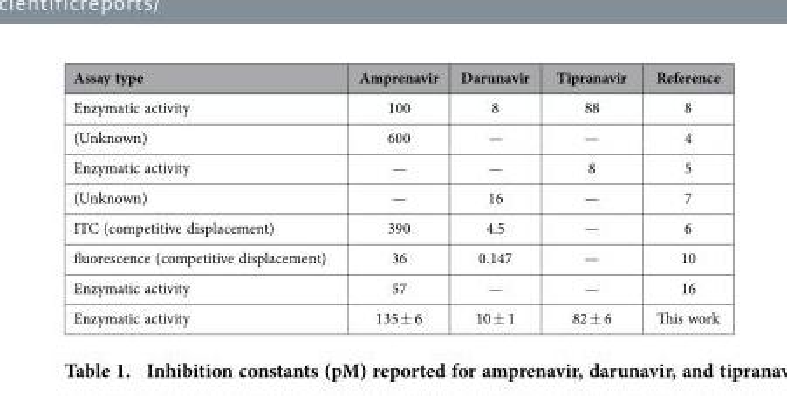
<table><thead><tr><td>Assay type</td><td>Amprenavir</td><td>Darunavir</td><td>Tipranavir</td><td>Reference</td></tr></thead><tbody><tr><td>Enzymatic activity</td><td>100</td><td>8</td><td>88</td><td>8</td></tr><tr><td>(Unknown)</td><td>600</td><td>—</td><td>—</td><td>4</td></tr><tr><td>Enzymatic activity</td><td>—</td><td>—</td><td>8</td><td>5</td></tr><tr><td>(Unknown)</td><td>—</td><td>16</td><td>—</td><td>7</td></tr><tr><td>ITC (competitive displacement)</td><td>390</td><td>4.5</td><td>—</td><td>6</td></tr><tr><td>fluorescence (competitive displacement)</td><td>36</td><td>0.147</td><td>—</td><td>10</td></tr><tr><td>Enzymatic activity</td><td>57</td><td>—</td><td>—</td><td>16</td></tr><tr><td>Enzymatic activity</td><td>135 ± 6</td><td>10 ± 1</td><td>82 ± 6</td><td>This work</td></tr></tbody></table>